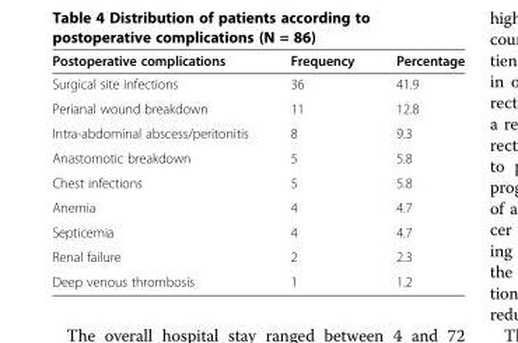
<table><thead><tr><td>Postoperative complications</td><td>Frequency</td><td>Percentage</td></tr></thead><tbody><tr><td>Surgical site infections</td><td>36</td><td>41.9</td></tr><tr><td>Perianal wound breakdown</td><td>11</td><td>12.8</td></tr><tr><td>Intra-abdominal abscess/peritonitis</td><td>8</td><td>9.3</td></tr><tr><td>Anastomotic breakdown</td><td>5</td><td>5.8</td></tr><tr><td>Chest infections</td><td>5</td><td>5.8</td></tr><tr><td>Anemia</td><td>4</td><td>4.7</td></tr><tr><td>Septicemia</td><td>4</td><td>4.7</td></tr><tr><td>Renal failure</td><td>2</td><td>2.3</td></tr><tr><td>Deep venous thrombosis</td><td>1</td><td>1.2</td></tr></tbody></table>